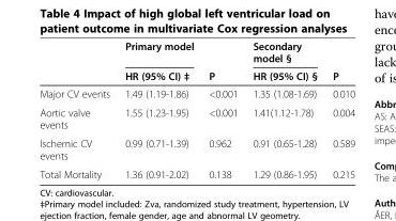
<table><thead><tr><td rowspan="2"></td><td rowspan="2">Primary model HR (95% CI) ‡</td><td rowspan="2">P</td><td rowspan="2">Secondary model § HR (95% CI) §</td><td rowspan="2">P</td></tr><tr></tr></thead><tbody><tr><td>Major CV events</td><td>1.49 (1.19-1.86)</td><td>&lt;0.001</td><td>1.35 (1.08-1.69)</td><td>0.010</td></tr><tr><td>Aortic valve events</td><td>1.55 (1.23-1.95)</td><td>&lt;0.001</td><td>1.41(1.12-1.78)</td><td>0.004</td></tr><tr><td>Ischemic CV events</td><td>0.99 (0.71-1.39)</td><td>0.962</td><td>0.91 (0.65-1.28)</td><td>0.589</td></tr><tr><td>Total Mortality</td><td>1.36 (0.91-2.02)</td><td>0.138</td><td>1.29 (0.86-1.95)</td><td>0.215</td></tr></tbody></table>